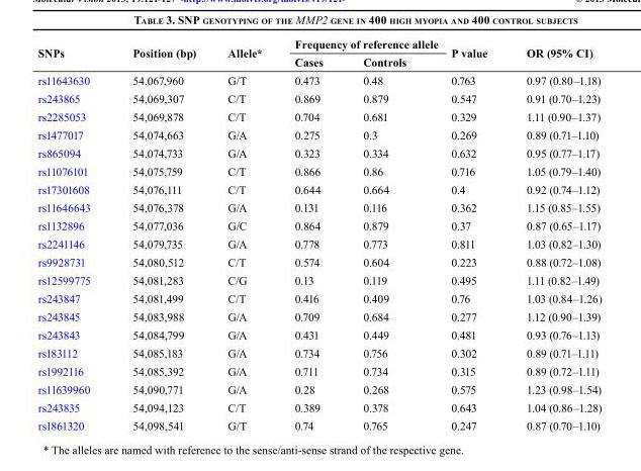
<table><thead><tr><td rowspan="2">SNPs</td><td rowspan="2">Position (bp)</td><td rowspan="2">Allele*</td><td colspan="2">Frequency of reference allele</td><td rowspan="2">P value</td><td rowspan="2">OR (95% CI)</td></tr><tr><td>Cases</td><td>Controls</td></tr></thead><tbody><tr><td>rs11643630</td><td>54,067,960</td><td>G/T</td><td>0.473</td><td>0.48</td><td>0.763</td><td>0.97 (0.80–1.18)</td></tr><tr><td>rs243865</td><td>54,069,307</td><td>C/T</td><td>0.869</td><td>0.879</td><td>0.547</td><td>0.91 (0.70–1.23)</td></tr><tr><td>rs2285053</td><td>54,069,878</td><td>C/T</td><td>0.704</td><td>0.681</td><td>0.329</td><td>1.11 (0.90–1.37)</td></tr><tr><td>rs1477017</td><td>54,074,663</td><td>G/A</td><td>0.275</td><td>0.3</td><td>0.269</td><td>0.89 (0.71–1.10)</td></tr><tr><td>rs865094</td><td>54,074,733</td><td>G/A</td><td>0.323</td><td>0.334</td><td>0.632</td><td>0.95 (0.77–1.17)</td></tr><tr><td>rs11076101</td><td>54,075,759</td><td>C/T</td><td>0.866</td><td>0.86</td><td>0.716</td><td>1.05 (0.79–1.40)</td></tr><tr><td>rs17301608</td><td>54,076,111</td><td>C/T</td><td>0.644</td><td>0.664</td><td>0.4</td><td>0.92 (0.74–1.12)</td></tr><tr><td>rs11646643</td><td>54,076,378</td><td>G/A</td><td>0.131</td><td>0.116</td><td>0.362</td><td>1.15 (0.85–1.55)</td></tr><tr><td>rs1132896</td><td>54,077,036</td><td>G/C</td><td>0.864</td><td>0.879</td><td>0.37</td><td>0.87 (0.65–1.17)</td></tr><tr><td>rs2241146</td><td>54,079,735</td><td>G/A</td><td>0.778</td><td>0.773</td><td>0.811</td><td>1.03 (0.82–1.30)</td></tr><tr><td>rs9928731</td><td>54,080,512</td><td>C/T</td><td>0.574</td><td>0.604</td><td>0.223</td><td>0.88 (0.72–1.08)</td></tr><tr><td>rs12599775</td><td>54,081,283</td><td>C/G</td><td>0.13</td><td>0.119</td><td>0.495</td><td>1.11 (0.82–1.49)</td></tr><tr><td>rs243847</td><td>54,081,499</td><td>C/T</td><td>0.416</td><td>0.409</td><td>0.76</td><td>1.03 (0.84–1.26)</td></tr><tr><td>rs243845</td><td>54,083,988</td><td>G/A</td><td>0.709</td><td>0.684</td><td>0.277</td><td>1.12 (0.90–1.39)</td></tr><tr><td>rs243843</td><td>54,084,799</td><td>G/A</td><td>0.431</td><td>0.449</td><td>0.481</td><td>0.93 (0.76–1.13)</td></tr><tr><td>rs183112</td><td>54,085,183</td><td>G/A</td><td>0.734</td><td>0.756</td><td>0.302</td><td>0.89 (0.71–1.11)</td></tr><tr><td>rs1992116</td><td>54,085,392</td><td>G/A</td><td>0.711</td><td>0.734</td><td>0.315</td><td>0.89 (0.72–1.11)</td></tr><tr><td>rs11639960</td><td>54,090,771</td><td>G/A</td><td>0.28</td><td>0.268</td><td>0.575</td><td>1.23 (0.98–1.54)</td></tr><tr><td>rs243835</td><td>54,094,123</td><td>C/T</td><td>0.389</td><td>0.378</td><td>0.643</td><td>1.04 (0.86–1.28)</td></tr><tr><td>rs1861320</td><td>54,098,541</td><td>G/T</td><td>0.74</td><td>0.765</td><td>0.247</td><td>0.87 (0.70–1.10)</td></tr></tbody></table>